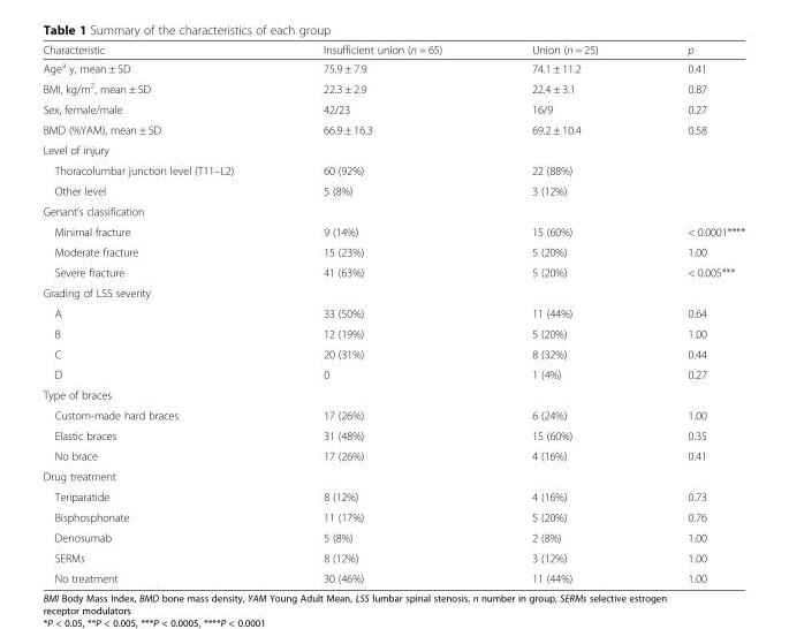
<table><thead><tr><td>Characteristic</td><td>Insufficient union (n = 65)</td><td>Union (n = 25)</td><td>p</td></tr></thead><tbody><tr><td>Age<sup>a</sup> y, mean ± SD</td><td>75.9 ± 7.9</td><td>74.1 ± 11.2</td><td>0.41</td></tr><tr><td>BMI, kg/m<sup>2</sup>, mean ± SD</td><td>22.3 ± 2.9</td><td>22.4 ± 3.1</td><td>0.87</td></tr><tr><td>Sex, female/male</td><td>42/23</td><td>16/9</td><td>0.27</td></tr><tr><td>BMD (%YAM), mean ± SD</td><td>66.9 ± 16.3</td><td>69.2 ± 10.4</td><td>0.58</td></tr><tr><td colspan="4">Level of injury</td></tr><tr><td>Thoracolumbar junction level (T11–L2)</td><td>60 (92%)</td><td>22 (88%)</td><td></td></tr><tr><td>Other level</td><td>5 (8%)</td><td>3 (12%)</td><td></td></tr><tr><td colspan="4">Genant’s classification</td></tr><tr><td>Minimal fracture</td><td>9 (14%)</td><td>15 (60%)</td><td>&lt; 0.0001****</td></tr><tr><td>Moderate fracture</td><td>15 (23%)</td><td>5 (20%)</td><td>1.00</td></tr><tr><td>Severe fracture</td><td>41 (63%)</td><td>5 (20%)</td><td>&lt; 0.005***</td></tr><tr><td colspan="4">Grading of LSS severity</td></tr><tr><td>A</td><td>33 (50%)</td><td>11 (44%)</td><td>0.64</td></tr><tr><td>B</td><td>12 (19%)</td><td>5 (20%)</td><td>1.00</td></tr><tr><td>C</td><td>20 (31%)</td><td>8 (32%)</td><td>0.44</td></tr><tr><td>D</td><td>0</td><td>1 (4%)</td><td>0.27</td></tr><tr><td colspan="4">Type of braces</td></tr><tr><td>Custom-made hard braces</td><td>17 (26%)</td><td>6 (24%)</td><td>1.00</td></tr><tr><td>Elastic braces</td><td>31 (48%)</td><td>15 (60%)</td><td>0.35</td></tr><tr><td>No brace</td><td>17 (26%)</td><td>4 (16%)</td><td>0.41</td></tr><tr><td colspan="4">Drug treatment</td></tr><tr><td>Teriparatide</td><td>8 (12%)</td><td>4 (16%)</td><td>0.73</td></tr><tr><td>Bisphosphonate</td><td>11 (17%)</td><td>5 (20%)</td><td>0.76</td></tr><tr><td>Denosumab</td><td>5 (8%)</td><td>2 (8%)</td><td>1.00</td></tr><tr><td>SERMs</td><td>8 (12%)</td><td>3 (12%)</td><td>1.00</td></tr><tr><td>No treatment</td><td>30 (46%)</td><td>11 (44%)</td><td>1.00</td></tr></tbody></table>